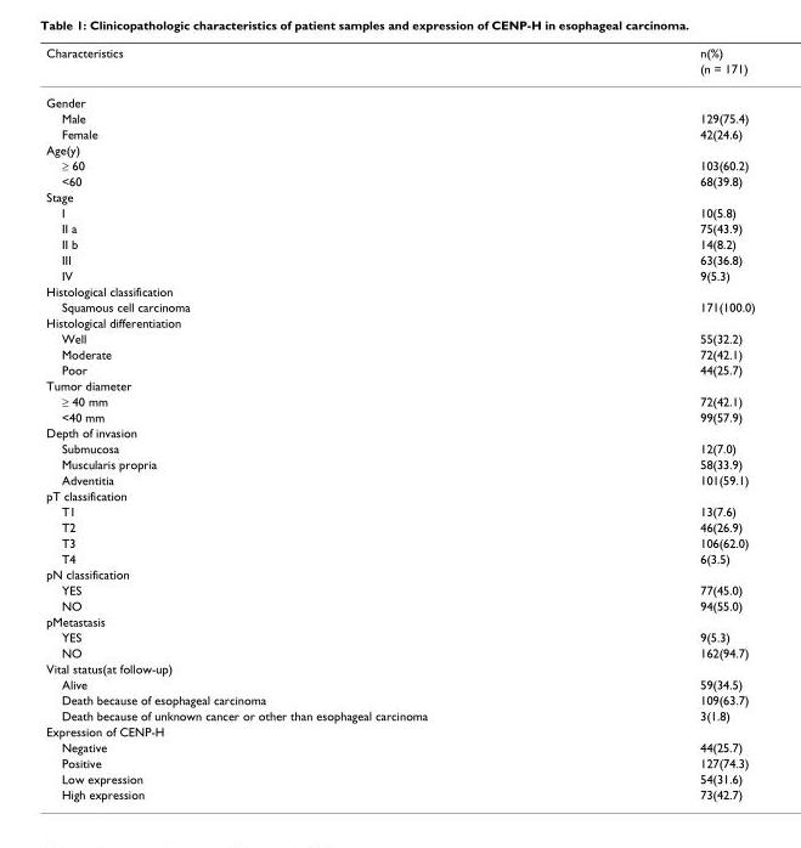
<table><thead><tr><td rowspan="2">Characteristics</td><td rowspan="2">n(%) (n = 171)</td></tr><tr></tr></thead><tbody><tr><td colspan="2">Gender</td></tr><tr><td>Male</td><td>129(75.4)</td></tr><tr><td>Female</td><td>42(24.6)</td></tr><tr><td colspan="2">Age(y)</td></tr><tr><td>≥ 60</td><td>103(60.2)</td></tr><tr><td>&lt;60</td><td>68(39.8)</td></tr><tr><td colspan="2">Stage</td></tr><tr><td>I</td><td>10(5.8)</td></tr><tr><td>II a</td><td>75(43.9)</td></tr><tr><td>II b</td><td>14(8.2)</td></tr><tr><td>III</td><td>63(36.8)</td></tr><tr><td>IV</td><td>9(5.3)</td></tr><tr><td colspan="2">Histological classification</td></tr><tr><td>Squamous cell carcinoma</td><td>171(100.0)</td></tr><tr><td colspan="2">Histological differentiation</td></tr><tr><td>Well</td><td>55(32.2)</td></tr><tr><td>Moderate</td><td>72(42.1)</td></tr><tr><td>Poor</td><td>44(25.7)</td></tr><tr><td colspan="2">Tumor diameter</td></tr><tr><td>≥ 40 mm</td><td>72(42.1)</td></tr><tr><td>&lt;40 mm</td><td>99(57.9)</td></tr><tr><td colspan="2">Depth of invasion</td></tr><tr><td>Submucosa</td><td>12(7.0)</td></tr><tr><td>Muscularis propria</td><td>58(33.9)</td></tr><tr><td>Adventitia</td><td>101(59.1)</td></tr><tr><td colspan="2">pT classification</td></tr><tr><td>T1</td><td>13(7.6)</td></tr><tr><td>T2</td><td>46(26.9)</td></tr><tr><td>T3</td><td>106(62.0)</td></tr><tr><td>T4</td><td>6(3.5)</td></tr><tr><td colspan="2">pN classification</td></tr><tr><td>YES</td><td>77(45.0)</td></tr><tr><td>NO</td><td>94(55.0)</td></tr><tr><td colspan="2">pMetastasis</td></tr><tr><td>YES</td><td>9(5.3)</td></tr><tr><td>NO</td><td>162(94.7)</td></tr><tr><td colspan="2">Vital status(at follow-up)</td></tr><tr><td>Alive</td><td>59(34.5)</td></tr><tr><td>Death because of esophageal carcinoma</td><td>109(63.7)</td></tr><tr><td>Death because of unknown cancer or other than esophageal carcinoma</td><td>3(1.8)</td></tr><tr><td colspan="2">Expression of CENP-H</td></tr><tr><td>Negative</td><td>44(25.7)</td></tr><tr><td>Positive</td><td>127(74.3)</td></tr><tr><td>Low expression</td><td>54(31.6)</td></tr><tr><td>High expression</td><td>73(42.7)</td></tr></tbody></table>